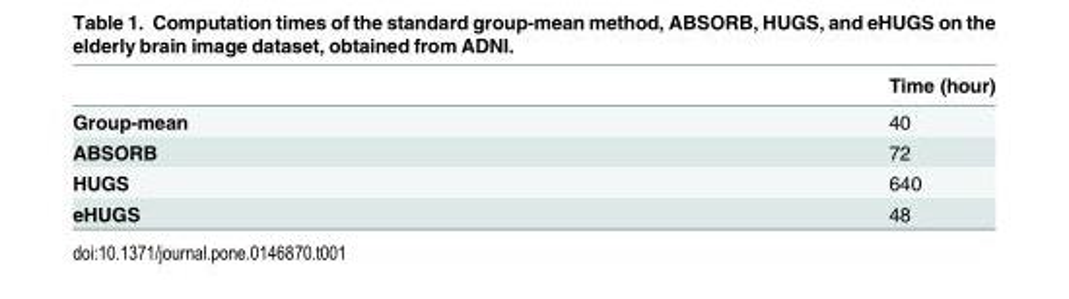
<table><thead><tr><td></td><td>Time (hour)</td></tr></thead><tbody><tr><td>Group-mean</td><td>40</td></tr><tr><td>ABSORB</td><td>72</td></tr><tr><td>HUGS</td><td>640</td></tr><tr><td>eHUGS</td><td>48</td></tr></tbody></table>